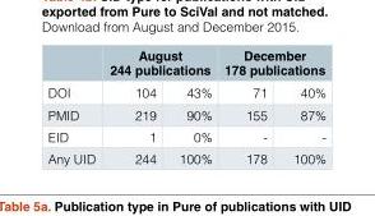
<table><thead><tr><td rowspan="2">DOI</td><td colspan="2">August 244 publications</td><td colspan="2">December 178 publications</td></tr><tr><td>104</td><td>43%</td><td>71</td><td>40%</td></tr></thead><tbody><tr><td>PMID</td><td>219</td><td>90%</td><td>155</td><td>87%</td></tr><tr><td>EID</td><td>1</td><td>0%</td><td>-</td><td>-</td></tr><tr><td>Any UID</td><td>244</td><td>100%</td><td>178</td><td>100%</td></tr></tbody></table>